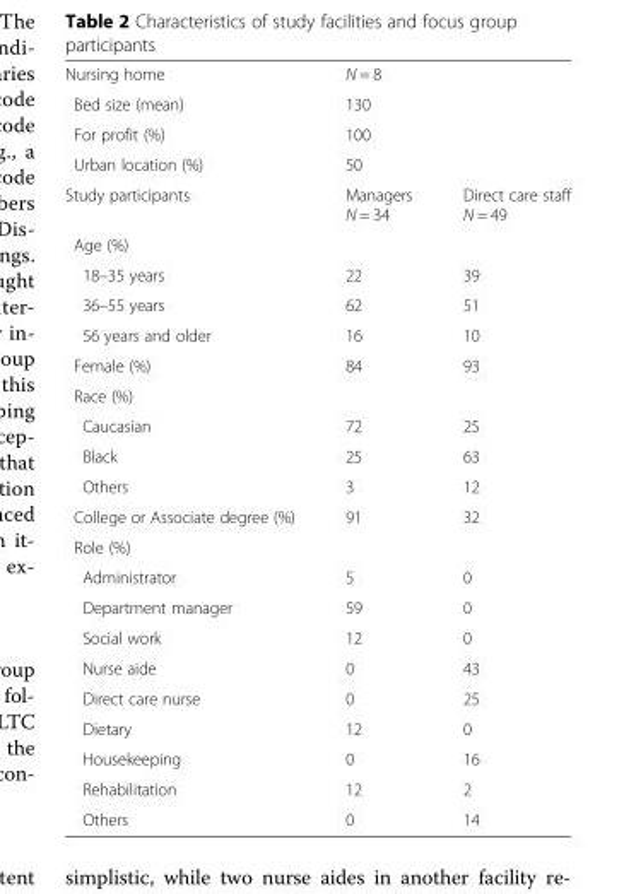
<table><tbody><tr><td>Nursing home</td><td colspan="2">N = 8</td></tr><tr><td>Bed size (mean)</td><td colspan="2">130</td></tr><tr><td>For profit (%)</td><td colspan="2">100</td></tr><tr><td>Urban location (%)</td><td colspan="2">50</td></tr><tr><td>Study participants</td><td>Managers N = 34</td><td>Direct care staff N = 49</td></tr><tr><td colspan="3">Age (%)</td></tr><tr><td>18–35 years</td><td>22</td><td>39</td></tr><tr><td>36–55 years</td><td>62</td><td>51</td></tr><tr><td>56 years and older</td><td>16</td><td>10</td></tr><tr><td>Female (%)</td><td>84</td><td>93</td></tr><tr><td colspan="3">Race (%)</td></tr><tr><td>Caucasian</td><td>72</td><td>25</td></tr><tr><td>Black</td><td>25</td><td>63</td></tr><tr><td>Others</td><td>3</td><td>12</td></tr><tr><td>College or Associate degree (%)</td><td>91</td><td>32</td></tr><tr><td colspan="3">Role (%)</td></tr><tr><td>Administrator</td><td>5</td><td>0</td></tr><tr><td>Department manager</td><td>59</td><td>0</td></tr><tr><td>Social work</td><td>12</td><td>0</td></tr><tr><td>Nurse aide</td><td>0</td><td>43</td></tr><tr><td>Direct care nurse</td><td>0</td><td>25</td></tr><tr><td>Dietary</td><td>12</td><td>0</td></tr><tr><td>Housekeeping</td><td>0</td><td>16</td></tr><tr><td>Rehabilitation</td><td>12</td><td>2</td></tr><tr><td>Others</td><td>0</td><td>14</td></tr></tbody></table>